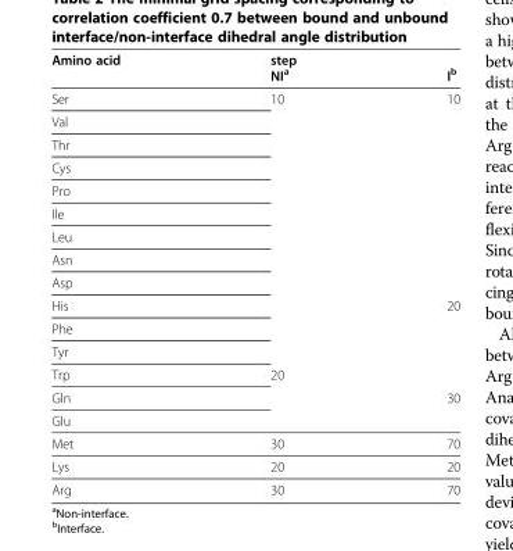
<table><thead><tr><td>Amino acid</td><td>step NI<sup>a</sup></td><td>I<sup>b</sup></td></tr></thead><tbody><tr><td>Ser</td><td>10</td><td>10</td></tr><tr><td colspan="3">Val</td></tr><tr><td colspan="3">Thr</td></tr><tr><td colspan="3">Cys</td></tr><tr><td colspan="3">Pro</td></tr><tr><td colspan="3">Ile</td></tr><tr><td colspan="3">Leu</td></tr><tr><td colspan="3">Asn</td></tr><tr><td colspan="3">Asp</td></tr><tr><td>His</td><td></td><td>20</td></tr><tr><td colspan="3">Phe</td></tr><tr><td colspan="3">Tyr</td></tr><tr><td>Trp</td><td>20</td><td></td></tr><tr><td>Gln</td><td></td><td>30</td></tr><tr><td colspan="3">Glu</td></tr><tr><td>Met</td><td>30</td><td>70</td></tr><tr><td>Lys</td><td>20</td><td>20</td></tr><tr><td>Arg</td><td>30</td><td>70</td></tr></tbody></table>